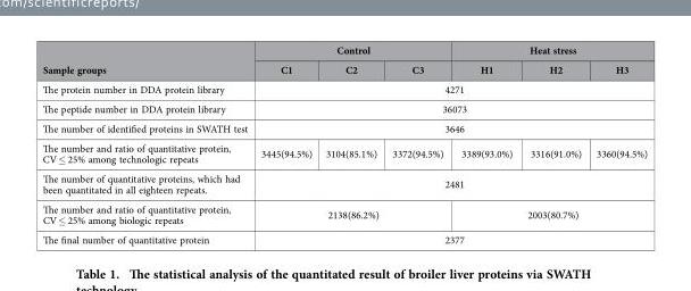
<table><thead><tr><td rowspan="2">Sample groups</td><td colspan="3">Control</td><td colspan="3">Heat stress</td></tr><tr><td>C1</td><td>C2</td><td>C3</td><td>H1</td><td>H2</td><td>H3</td></tr></thead><tbody><tr><td>The protein number in DDA protein library</td><td colspan="6">4271</td></tr><tr><td>The peptide number in DDA protein library</td><td colspan="6">36073</td></tr><tr><td>The number of identified proteins in SWATH test</td><td colspan="6">3646</td></tr><tr><td>The number and ratio of quantitative protein, CV ≤ 25% among technologic repeats</td><td>3445(94.5%)</td><td>3104(85.1%)</td><td>3372(94.5%)</td><td>3389(93.0%)</td><td>3316(91.0%)</td><td>3360(94.5%)</td></tr><tr><td>The number of quantitative proteins, which had been quantitated in all eighteen repeats.</td><td colspan="6">2481</td></tr><tr><td>The number and ratio of quantitative protein, CV ≤ 25% among biologic repeats</td><td colspan="3">2138(86.2%)</td><td colspan="3">2003(80.7%)</td></tr><tr><td>The final number of quantitative protein</td><td colspan="6">2377</td></tr></tbody></table>